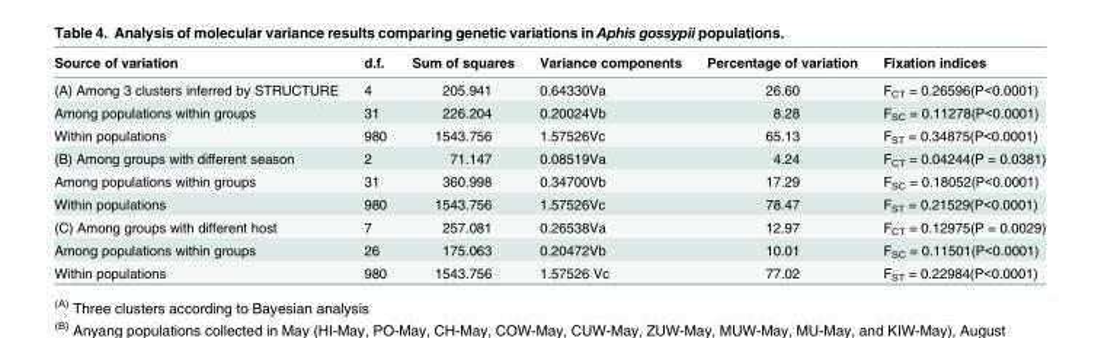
<table><thead><tr><td>Source of variation</td><td>d.f.</td><td>Sum of squares</td><td>Variance components</td><td>Percentage of variation</td><td>Fixation indices</td></tr></thead><tbody><tr><td>(A) Among 3 clusters inferred by STRUCTURE</td><td>4</td><td>205.941</td><td>0.64330Va</td><td>26.60</td><td>F<sub>CT</sub> = 0.26596(P&lt;0.0001)</td></tr><tr><td>Among populations within groups</td><td>31</td><td>226.204</td><td>0.20024Vb</td><td>8.28</td><td>F<sub>SC</sub> = 0.11278(P&lt;0.0001)</td></tr><tr><td>Within populations</td><td>980</td><td>1543.756</td><td>1.57526Vc</td><td>65.13</td><td>F<sub>ST</sub> = 0.34875(P&lt;0.0001)</td></tr><tr><td>(B) Among groups with different season</td><td>2</td><td>71.147</td><td>0.08519Va</td><td>4.24</td><td>F<sub>CT</sub> = 0.04244(P = 0.0381)</td></tr><tr><td>Among populations within groups</td><td>31</td><td>360.998</td><td>0.34700Vb</td><td>17.29</td><td>F<sub>SC</sub> = 0.18052(P&lt;0.0001)</td></tr><tr><td>Within populations</td><td>980</td><td>1543.756</td><td>1.57526Vc</td><td>78.47</td><td>F<sub>ST</sub> = 0.21529(P&lt;0.0001)</td></tr><tr><td>(C) Among groups with different host</td><td>7</td><td>257.081</td><td>0.26538Va</td><td>12.97</td><td>F<sub>CT</sub> = 0.12975(P = 0.0029)</td></tr><tr><td>Among populations within groups</td><td>26</td><td>175.063</td><td>0.20472Vb</td><td>10.01</td><td>F<sub>SC</sub> = 0.11501(P&lt;0.0001)</td></tr><tr><td>Within populations</td><td>980</td><td>1543.756</td><td>1.57526 Vc</td><td>77.02</td><td>F<sub>ST</sub> = 0.22984(P&lt;0.0001)</td></tr></tbody></table>